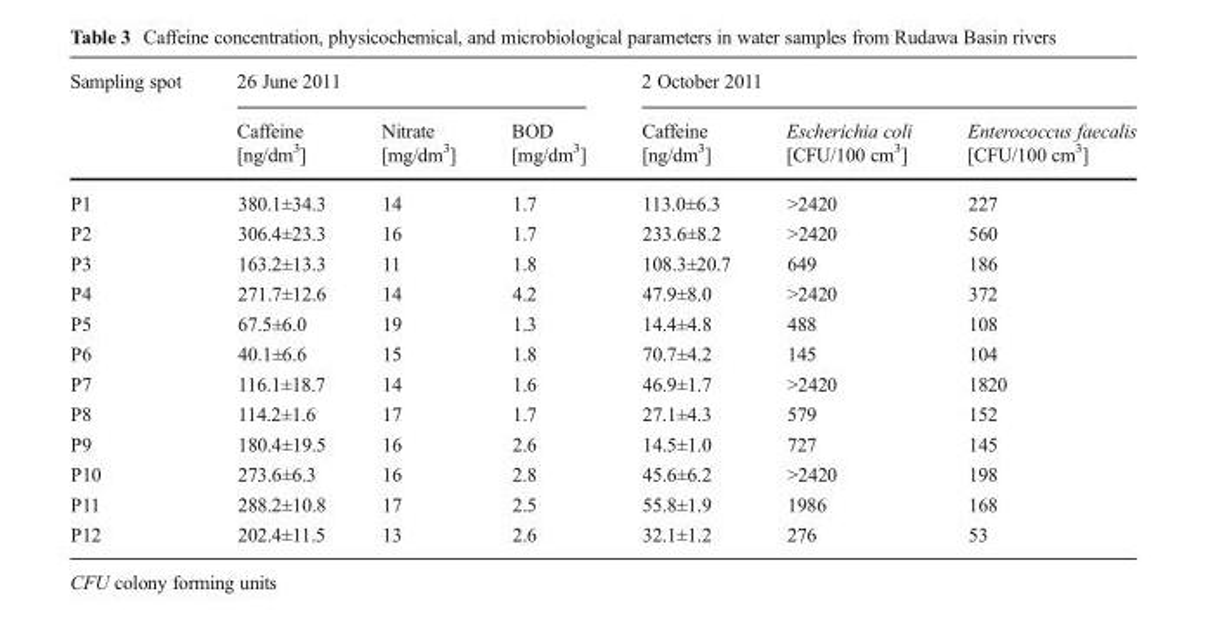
<table><thead><tr><td rowspan="2">Sampling spot</td><td colspan="3">26 June 2011</td><td colspan="3">2 October 2011</td></tr><tr><td>Caffeine [ng/dm<sup>3</sup>]</td><td>Nitrate [mg/dm<sup>3</sup>]</td><td>BOD [mg/dm<sup>3</sup>]</td><td>Caffeine [ng/dm<sup>3</sup>]</td><td>Escherichia coli [CFU/100 cm<sup>3</sup>]</td><td>Enterococcus faecalis [CFU/100 cm<sup>3</sup>]</td></tr></thead><tbody><tr><td>P1</td><td>380.1±34.3</td><td>14</td><td>1.7</td><td>113.0±6.3</td><td>&gt;2420</td><td>227</td></tr><tr><td>P2</td><td>306.4±23.3</td><td>16</td><td>1.7</td><td>233.6±8.2</td><td>&gt;2420</td><td>560</td></tr><tr><td>P3</td><td>163.2±13.3</td><td>11</td><td>1.8</td><td>108.3±20.7</td><td>649</td><td>186</td></tr><tr><td>P4</td><td>271.7±12.6</td><td>14</td><td>4.2</td><td>47.9±8.0</td><td>&gt;2420</td><td>372</td></tr><tr><td>P5</td><td>67.5±6.0</td><td>19</td><td>1.3</td><td>14.4±4.8</td><td>488</td><td>108</td></tr><tr><td>P6</td><td>40.1±6.6</td><td>15</td><td>1.8</td><td>70.7±4.2</td><td>145</td><td>104</td></tr><tr><td>P7</td><td>116.1±18.7</td><td>14</td><td>1.6</td><td>46.9±1.7</td><td>&gt;2420</td><td>1820</td></tr><tr><td>P8</td><td>114.2±1.6</td><td>17</td><td>1.7</td><td>27.1±4.3</td><td>579</td><td>152</td></tr><tr><td>P9</td><td>180.4±19.5</td><td>16</td><td>2.6</td><td>14.5±1.0</td><td>727</td><td>145</td></tr><tr><td>P10</td><td>273.6±6.3</td><td>16</td><td>2.8</td><td>45.6±6.2</td><td>&gt;2420</td><td>198</td></tr><tr><td>P11</td><td>288.2±10.8</td><td>17</td><td>2.5</td><td>55.8±1.9</td><td>1986</td><td>168</td></tr><tr><td>P12</td><td>202.4±11.5</td><td>13</td><td>2.6</td><td>32.1±1.2</td><td>276</td><td>53</td></tr></tbody></table>